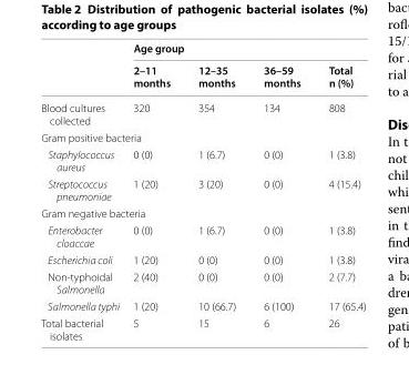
<table><thead><tr><td rowspan="2"></td><td colspan="4">Age group</td></tr><tr><td>2–11 months</td><td>12–35 months</td><td>36–59 months</td><td>Total n (%)</td></tr></thead><tbody><tr><td>Blood cultures collected</td><td>320</td><td>354</td><td>134</td><td>808</td></tr><tr><td colspan="5">Gram positive bacteria</td></tr><tr><td>Staphylococcus aureus</td><td>0 (0)</td><td>1 (6.7)</td><td>0 (0)</td><td>1 (3.8)</td></tr><tr><td>Streptococcus pneumoniae</td><td>1 (20)</td><td>3 (20)</td><td>0 (0)</td><td>4 (15.4)</td></tr><tr><td colspan="5">Gram negative bacteria</td></tr><tr><td>Enterobacter cloaccae</td><td>0 (0)</td><td>1 (6.7)</td><td>0 (0)</td><td>1 (3.8)</td></tr><tr><td>Escherichia coli</td><td>1 (20)</td><td>0 (0)</td><td>0 (0)</td><td>1 (3.8)</td></tr><tr><td>Non-typhoidal Salmonella</td><td>2 (40)</td><td>0 (0)</td><td>0 (0)</td><td>2 (7.7)</td></tr><tr><td>Salmonella typhi</td><td>1 (20)</td><td>10 (66.7)</td><td>6 (100)</td><td>17 (65.4)</td></tr><tr><td>Total bacterial isolates</td><td>5</td><td>15</td><td>6</td><td>26</td></tr></tbody></table>